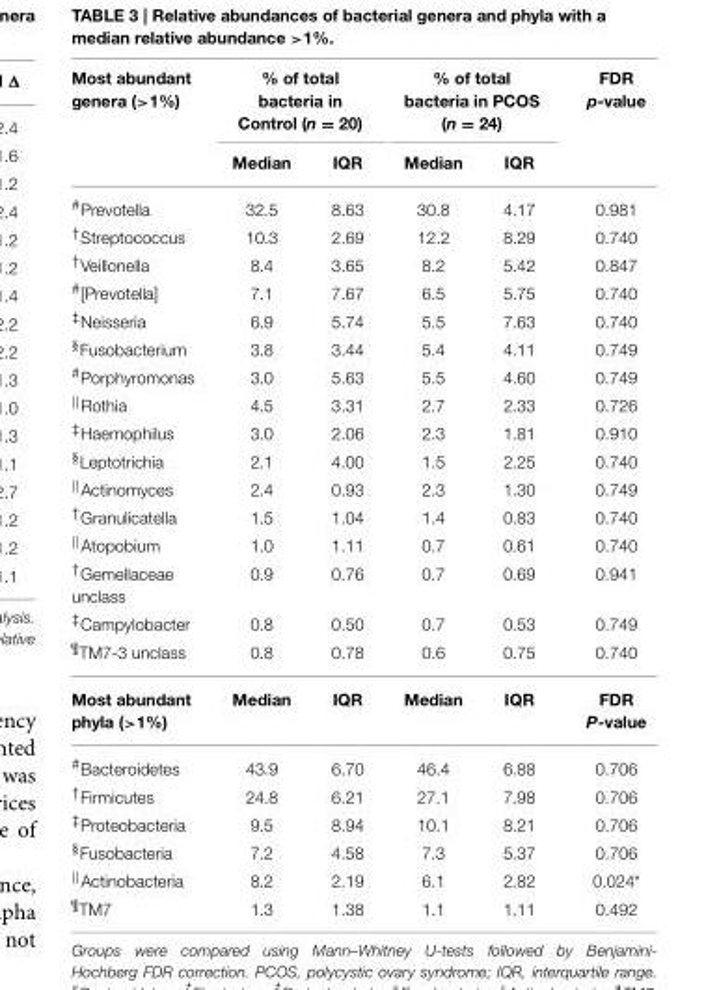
<table><thead><tr><td rowspan="2">Most abundant genera (&gt;1%)</td><td colspan="2">% of total bacteria in Control (n = 20)</td><td colspan="2">% of total bacteria in PCOS (n = 24)</td><td rowspan="2">FDR p-value</td></tr><tr><td>Median</td><td>IQR</td><td>Median</td><td>IQR</td></tr></thead><tbody><tr><td><sup>#</sup>Prevotella</td><td>32.5</td><td>8.63</td><td>30.8</td><td>4.17</td><td>0.981</td></tr><tr><td><sup>†</sup>Streptococcus</td><td>10.3</td><td>2.69</td><td>12.2</td><td>8.29</td><td>0.740</td></tr><tr><td><sup>†</sup>Veillonella</td><td>8.4</td><td>3.65</td><td>8.2</td><td>5.42</td><td>0.847</td></tr><tr><td><sup>#</sup>[Prevotella]</td><td>7.1</td><td>7.67</td><td>6.5</td><td>5.75</td><td>0.740</td></tr><tr><td><sup>‡</sup>Neisseria</td><td>6.9</td><td>5.74</td><td>5.5</td><td>7.63</td><td>0.740</td></tr><tr><td><sup>§</sup>Fusobacterium</td><td>3.8</td><td>3.44</td><td>5.4</td><td>4.11</td><td>0.749</td></tr><tr><td><sup>#</sup>Porphyromonas</td><td>3.0</td><td>5.63</td><td>5.5</td><td>4.60</td><td>0.749</td></tr><tr><td><sup>||</sup>Rothia</td><td>4.5</td><td>3.31</td><td>2.7</td><td>2.33</td><td>0.726</td></tr><tr><td><sup>‡</sup>Haemophilus</td><td>3.0</td><td>2.06</td><td>2.3</td><td>1.81</td><td>0.910</td></tr><tr><td><sup>§</sup>Leptotrichia</td><td>2.1</td><td>4.00</td><td>1.5</td><td>2.25</td><td>0.740</td></tr><tr><td><sup>||</sup>Actinomyces</td><td>2.4</td><td>0.93</td><td>2.3</td><td>1.30</td><td>0.749</td></tr><tr><td><sup>†</sup>Granulicatella</td><td>1.5</td><td>1.04</td><td>1.4</td><td>0.83</td><td>0.740</td></tr><tr><td><sup>||</sup>Atopobium</td><td>1.0</td><td>1.11</td><td>0.7</td><td>0.61</td><td>0.740</td></tr><tr><td><sup>†</sup>Gemellaceae unclass</td><td>0.9</td><td>0.76</td><td>0.7</td><td>0.69</td><td>0.941</td></tr><tr><td><sup>‡</sup>Campylobacter</td><td>0.8</td><td>0.50</td><td>0.7</td><td>0.53</td><td>0.749</td></tr><tr><td><sup>¶</sup>TM7-3 unclass</td><td>0.8</td><td>0.78</td><td>0.6</td><td>0.75</td><td>0.740</td></tr><tr><td>Most abundant phyla (&gt;1%)</td><td>Median</td><td>IQR</td><td>Median</td><td>IQR</td><td>FDR P-value</td></tr><tr><td><sup>#</sup>Bacteroidetes</td><td>43.9</td><td>6.70</td><td>46.4</td><td>6.88</td><td>0.706</td></tr><tr><td><sup>†</sup>Firmicutes</td><td>24.8</td><td>6.21</td><td>27.1</td><td>7.98</td><td>0.706</td></tr><tr><td><sup>‡</sup>Proteobacteria</td><td>9.5</td><td>8.94</td><td>10.1</td><td>8.21</td><td>0.706</td></tr><tr><td><sup>§</sup>Fusobacteria</td><td>7.2</td><td>4.58</td><td>7.3</td><td>5.37</td><td>0.706</td></tr><tr><td><sup>||</sup>Actinobacteria</td><td>8.2</td><td>2.19</td><td>6.1</td><td>2.82</td><td>0.024*</td></tr><tr><td><sup>¶</sup>TM7</td><td>1.3</td><td>1.38</td><td>1.1</td><td>1.11</td><td>0.492</td></tr></tbody></table>